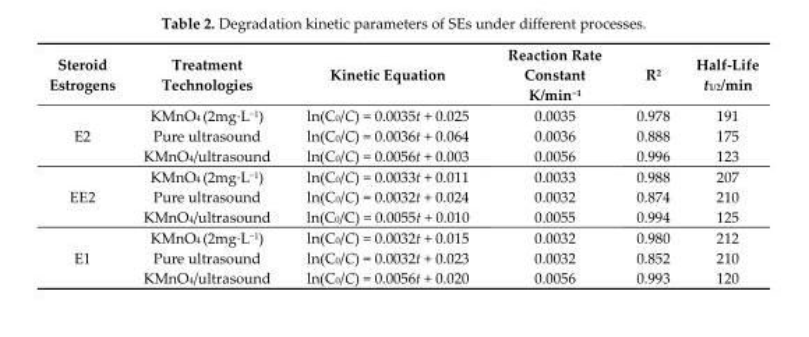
<table><thead><tr><td>Steroid Estrogens</td><td>Treatment Technologies</td><td>Kinetic Equation</td><td>Reaction Rate Constant K/min<sup>−1</sup></td><td>R<sup>2</sup></td><td>Half-Life t<sub>1/2</sub>/min</td></tr></thead><tbody><tr><td rowspan="3">E2</td><td>KMnO<sub>4</sub> (2mg·L<sup>−1</sup>)</td><td>ln(C<sub>0</sub>/C) = 0.0035t + 0.025</td><td>0.0035</td><td>0.978</td><td>191</td></tr><tr><td>Pure ultrasound</td><td>ln(C<sub>0</sub>/C) = 0.0036t + 0.064</td><td>0.0036</td><td>0.888</td><td>175</td></tr><tr><td>KMnO<sub>4</sub>/ultrasound</td><td>ln(C<sub>0</sub>/C) = 0.0056t + 0.003</td><td>0.0056</td><td>0.996</td><td>123</td></tr><tr><td rowspan="3">EE2</td><td>KMnO<sub>4</sub> (2mg·L<sup>−1</sup>)</td><td>ln(C<sub>0</sub>/C) = 0.0033t + 0.011</td><td>0.0033</td><td>0.988</td><td>207</td></tr><tr><td>Pure ultrasound</td><td>ln(C<sub>0</sub>/C) = 0.0032t + 0.024</td><td>0.0032</td><td>0.874</td><td>210</td></tr><tr><td>KMnO<sub>4</sub>/ultrasound</td><td>ln(C<sub>0</sub>/C) = 0.0055t + 0.010</td><td>0.0055</td><td>0.994</td><td>125</td></tr><tr><td rowspan="3">E1</td><td>KMnO<sub>4</sub> (2mg·L<sup>−1</sup>)</td><td>ln(C<sub>0</sub>/C) = 0.0032t + 0.015</td><td>0.0032</td><td>0.980</td><td>212</td></tr><tr><td>Pure ultrasound</td><td>ln(C<sub>0</sub>/C) = 0.0032t + 0.023</td><td>0.0032</td><td>0.852</td><td>210</td></tr><tr><td>KMnO<sub>4</sub>/ultrasound</td><td>ln(C<sub>0</sub>/C) = 0.0056t + 0.020</td><td>0.0056</td><td>0.993</td><td>120</td></tr></tbody></table>